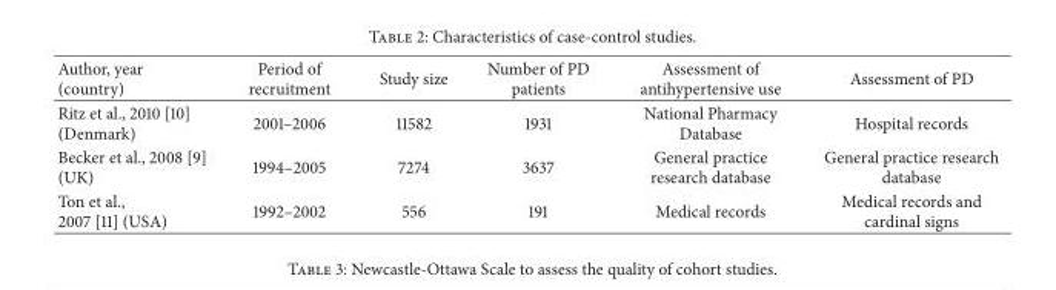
<table><thead><tr><td>Author, year (country)</td><td>Period of recruitment</td><td>Study size</td><td>Number of PD patients</td><td>Assessment of antihypertensive use</td><td>Assessment of PD</td></tr></thead><tbody><tr><td>Ritz et al., 2010 [10] (Denmark)</td><td>2001–2006</td><td>11582</td><td>1931</td><td>National Pharmacy Database</td><td>Hospital records</td></tr><tr><td>Becker et al., 2008 [9] (UK)</td><td>1994–2005</td><td>7274</td><td>3637</td><td>General practice research database</td><td>General practice research database</td></tr><tr><td>Ton et al., 2007 [11] (USA)</td><td>1992–2002</td><td>556</td><td>191</td><td>Medical records</td><td>Medical records and cardinal signs</td></tr></tbody></table>